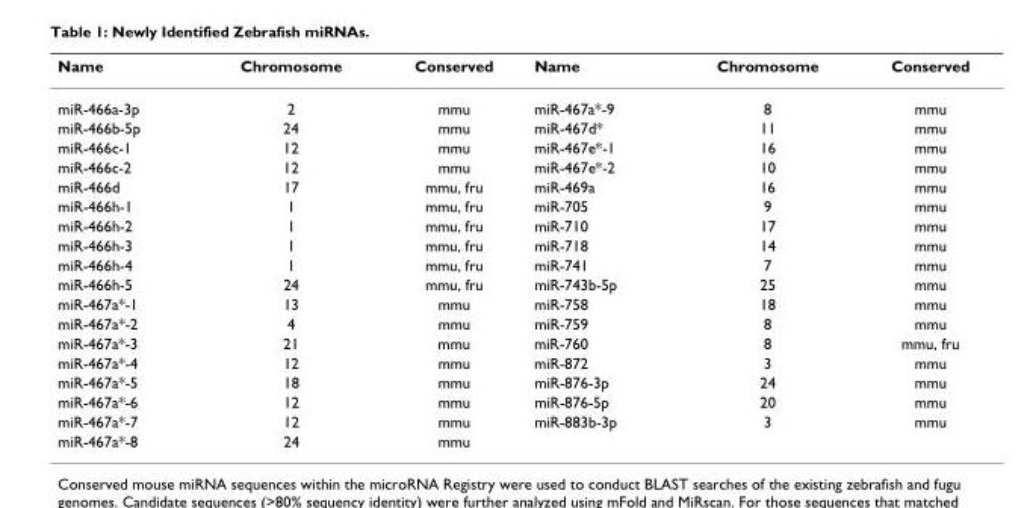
<table><thead><tr><td>Name</td><td>Chromosome</td><td>Conserved</td><td>Name</td><td>Chromosome</td><td>Conserved</td></tr></thead><tbody><tr><td>miR-466a-3p</td><td>2</td><td>mmu</td><td>miR-467a*-9</td><td>8</td><td>mmu</td></tr><tr><td>miR-466b-5p</td><td>24</td><td>mmu</td><td>miR-467d*</td><td>11</td><td>mmu</td></tr><tr><td>miR-466c-1</td><td>12</td><td>mmu</td><td>miR-467e*-1</td><td>16</td><td>mmu</td></tr><tr><td>miR-466c-2</td><td>12</td><td>mmu</td><td>miR-467e*-2</td><td>10</td><td>mmu</td></tr><tr><td>miR-466d</td><td>17</td><td>mmu, fru</td><td>miR-469a</td><td>16</td><td>mmu</td></tr><tr><td>miR-466h-1</td><td>1</td><td>mmu, fru</td><td>miR-705</td><td>9</td><td>mmu</td></tr><tr><td>miR-466h-2</td><td>1</td><td>mmu, fru</td><td>miR-710</td><td>17</td><td>mmu</td></tr><tr><td>miR-466h-3</td><td>1</td><td>mmu, fru</td><td>miR-718</td><td>14</td><td>mmu</td></tr><tr><td>miR-466h-4</td><td>1</td><td>mmu, fru</td><td>miR-741</td><td>7</td><td>mmu</td></tr><tr><td>miR-466h-5</td><td>24</td><td>mmu, fru</td><td>miR-743b-5p</td><td>25</td><td>mmu</td></tr><tr><td>miR-467a*-1</td><td>13</td><td>mmu</td><td>miR-758</td><td>18</td><td>mmu</td></tr><tr><td>miR-467a*-2</td><td>4</td><td>mmu</td><td>miR-759</td><td>8</td><td>mmu</td></tr><tr><td>miR-467a*-3</td><td>21</td><td>mmu</td><td>miR-760</td><td>8</td><td>mmu, fru</td></tr><tr><td>miR-467a*-4</td><td>12</td><td>mmu</td><td>miR-872</td><td>3</td><td>mmu</td></tr><tr><td>miR-467a*-5</td><td>18</td><td>mmu</td><td>miR-876-3p</td><td>24</td><td>mmu</td></tr><tr><td>miR-467a*-6</td><td>12</td><td>mmu</td><td>miR-876-5p</td><td>20</td><td>mmu</td></tr><tr><td>miR-467a*-7</td><td>12</td><td>mmu</td><td>miR-883b-3p</td><td>3</td><td>mmu</td></tr><tr><td>miR-467a*-8</td><td>24</td><td>mmu</td><td></td><td></td><td></td></tr></tbody></table>